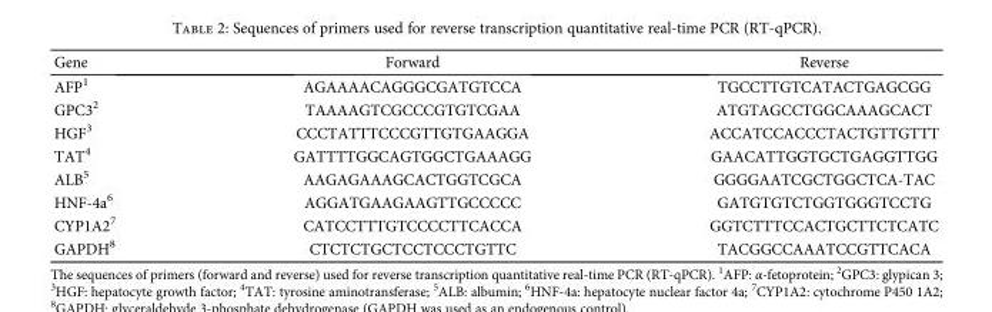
<table><thead><tr><td>Gene</td><td>Forward</td><td>Reverse</td></tr></thead><tbody><tr><td>AFP<sup>1</sup></td><td>AGAAAACAGGGCGATGTCCA</td><td>TGCCTTGTCATACTGAGCGG</td></tr><tr><td>GPC3<sup>2</sup></td><td>TAAAAGTCGCCCGTGTCGAA</td><td>ATGTAGCCTGGCAAAGCACT</td></tr><tr><td>HGF<sup>3</sup></td><td>CCCTATTTCCCGTTGTGAAGGA</td><td>ACCATCCACCCTACTGTTGTTT</td></tr><tr><td>TAT<sup>4</sup></td><td>GATTTTGGCAGTGGCTGAAAGG</td><td>GAACATTGGTGCTGAGGTTGG</td></tr><tr><td>ALB<sup>5</sup></td><td>AAGAGAAAGCACTGGTCGCA</td><td>GGGGAATCGCTGGCTCA-TAC</td></tr><tr><td>HNF-4a<sup>6</sup></td><td>AGGATGAAGAAGTTGCCCCC</td><td>GATGTGTCTGGTGGGTCCTG</td></tr><tr><td>CYP1A2<sup>7</sup></td><td>CATCCTTTGTCCCCTTCACCA</td><td>GGTCTTTCCACTGCTTCTCATC</td></tr><tr><td>GAPDH<sup>8</sup></td><td>CTCTCTGCTCCTCCCTGTTC</td><td>TACGGCCAAATCCGTTCACA</td></tr></tbody></table>